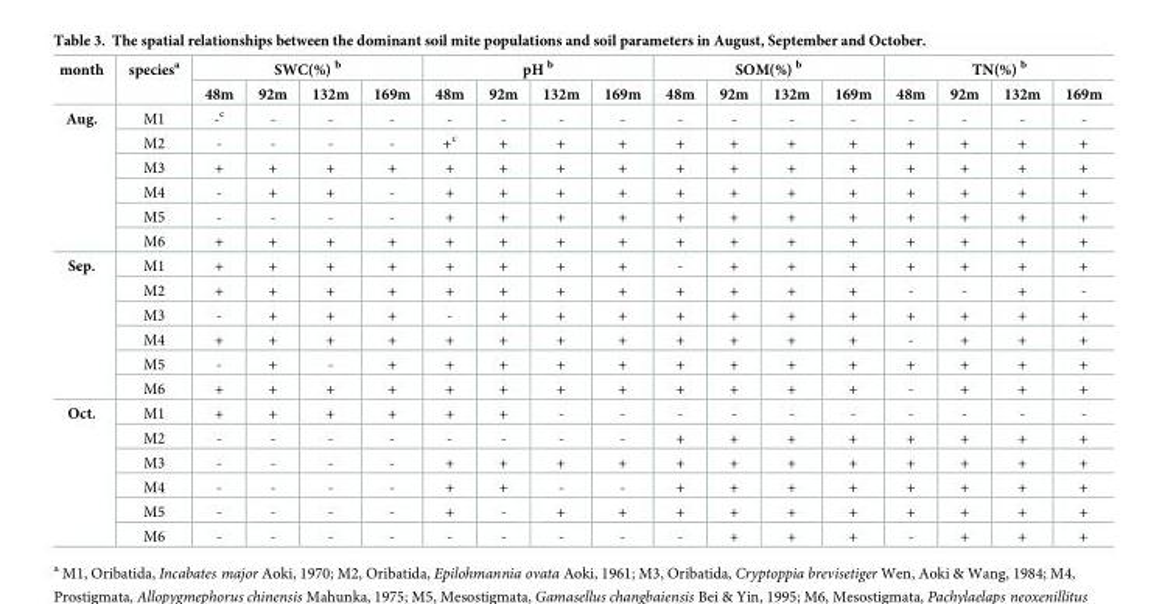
<table><thead><tr><td rowspan="2">month</td><td rowspan="2">species<sup>a</sup></td><td colspan="4">SWC(%) <sup>b</sup></td><td colspan="4">pH <sup>b</sup></td><td colspan="4">SOM(%) <sup>b</sup></td><td colspan="4">TN(%) <sup>b</sup></td></tr><tr><td>48m</td><td>92m</td><td>132m</td><td>169m</td><td>48m</td><td>92m</td><td>132m</td><td>169m</td><td>48m</td><td>92m</td><td>132m</td><td>169m</td><td>48m</td><td>92m</td><td>132m</td><td>169m</td></tr></thead><tbody><tr><td rowspan="6">Aug.</td><td>M1</td><td>-<sup>c</sup></td><td>-</td><td>-</td><td>-</td><td>-</td><td>-</td><td>-</td><td>-</td><td>-</td><td>-</td><td>-</td><td>-</td><td>-</td><td>-</td><td>-</td><td>-</td></tr><tr><td>M2</td><td>-</td><td>-</td><td>-</td><td>-</td><td>+<sup>c</sup></td><td>+</td><td>+</td><td>+</td><td>+</td><td>+</td><td>+</td><td>+</td><td>+</td><td>+</td><td>+</td><td>+</td></tr><tr><td>M3</td><td>+</td><td>+</td><td>+</td><td>+</td><td>+</td><td>+</td><td>+</td><td>+</td><td>+</td><td>+</td><td>+</td><td>+</td><td>+</td><td>+</td><td>+</td><td>+</td></tr><tr><td>M4</td><td>-</td><td>+</td><td>+</td><td>-</td><td>+</td><td>+</td><td>+</td><td>+</td><td>+</td><td>+</td><td>+</td><td>+</td><td>+</td><td>+</td><td>+</td><td>+</td></tr><tr><td>M5</td><td>-</td><td>-</td><td>-</td><td>-</td><td>+</td><td>+</td><td>+</td><td>+</td><td>+</td><td>+</td><td>+</td><td>+</td><td>+</td><td>+</td><td>+</td><td>+</td></tr><tr><td>M6</td><td>+</td><td>+</td><td>+</td><td>+</td><td>+</td><td>+</td><td>+</td><td>+</td><td>+</td><td>+</td><td>+</td><td>+</td><td>+</td><td>+</td><td>+</td><td>+</td></tr><tr><td rowspan="6">Sep.</td><td>M1</td><td>+</td><td>+</td><td>+</td><td>+</td><td>+</td><td>+</td><td>+</td><td>+</td><td>-</td><td>+</td><td>+</td><td>+</td><td>+</td><td>+</td><td>+</td><td>+</td></tr><tr><td>M2</td><td>+</td><td>+</td><td>+</td><td>+</td><td>+</td><td>+</td><td>+</td><td>+</td><td>+</td><td>+</td><td>+</td><td>+</td><td>-</td><td>-</td><td>+</td><td>-</td></tr><tr><td>M3</td><td>-</td><td>+</td><td>+</td><td>+</td><td>-</td><td>+</td><td>+</td><td>+</td><td>+</td><td>+</td><td>+</td><td>+</td><td>+</td><td>+</td><td>+</td><td>+</td></tr><tr><td>M4</td><td>+</td><td>+</td><td>+</td><td>+</td><td>+</td><td>+</td><td>+</td><td>+</td><td>+</td><td>+</td><td>+</td><td>+</td><td>-</td><td>+</td><td>+</td><td>+</td></tr><tr><td>M5</td><td>-</td><td>+</td><td>-</td><td>+</td><td>+</td><td>+</td><td>+</td><td>+</td><td>+</td><td>+</td><td>+</td><td>+</td><td>+</td><td>+</td><td>+</td><td>+</td></tr><tr><td>M6</td><td>+</td><td>+</td><td>+</td><td>+</td><td>+</td><td>+</td><td>+</td><td>+</td><td>+</td><td>+</td><td>+</td><td>+</td><td>-</td><td>+</td><td>+</td><td>+</td></tr><tr><td rowspan="6">Oct.</td><td>M1</td><td>+</td><td>+</td><td>+</td><td>+</td><td>+</td><td>+</td><td>-</td><td>-</td><td>-</td><td>-</td><td>-</td><td>-</td><td>-</td><td>-</td><td>-</td><td>-</td></tr><tr><td>M2</td><td>-</td><td>-</td><td>-</td><td>-</td><td>-</td><td>-</td><td>-</td><td>-</td><td>+</td><td>+</td><td>+</td><td>+</td><td>+</td><td>+</td><td>+</td><td>+</td></tr><tr><td>M3</td><td>-</td><td>-</td><td>-</td><td>-</td><td>+</td><td>+</td><td>+</td><td>+</td><td>+</td><td>+</td><td>+</td><td>+</td><td>+</td><td>+</td><td>+</td><td>+</td></tr><tr><td>M4</td><td>-</td><td>-</td><td>-</td><td>-</td><td>+</td><td>+</td><td>-</td><td>-</td><td>+</td><td>+</td><td>+</td><td>+</td><td>+</td><td>+</td><td>+</td><td>+</td></tr><tr><td>M5</td><td>-</td><td>-</td><td>-</td><td>-</td><td>+</td><td>-</td><td>+</td><td>+</td><td>+</td><td>+</td><td>+</td><td>+</td><td>+</td><td>+</td><td>+</td><td>+</td></tr><tr><td>M6</td><td>-</td><td>-</td><td>-</td><td>-</td><td>-</td><td>-</td><td>-</td><td>-</td><td>-</td><td>+</td><td>+</td><td>+</td><td>-</td><td>+</td><td>+</td><td>+</td></tr></tbody></table>